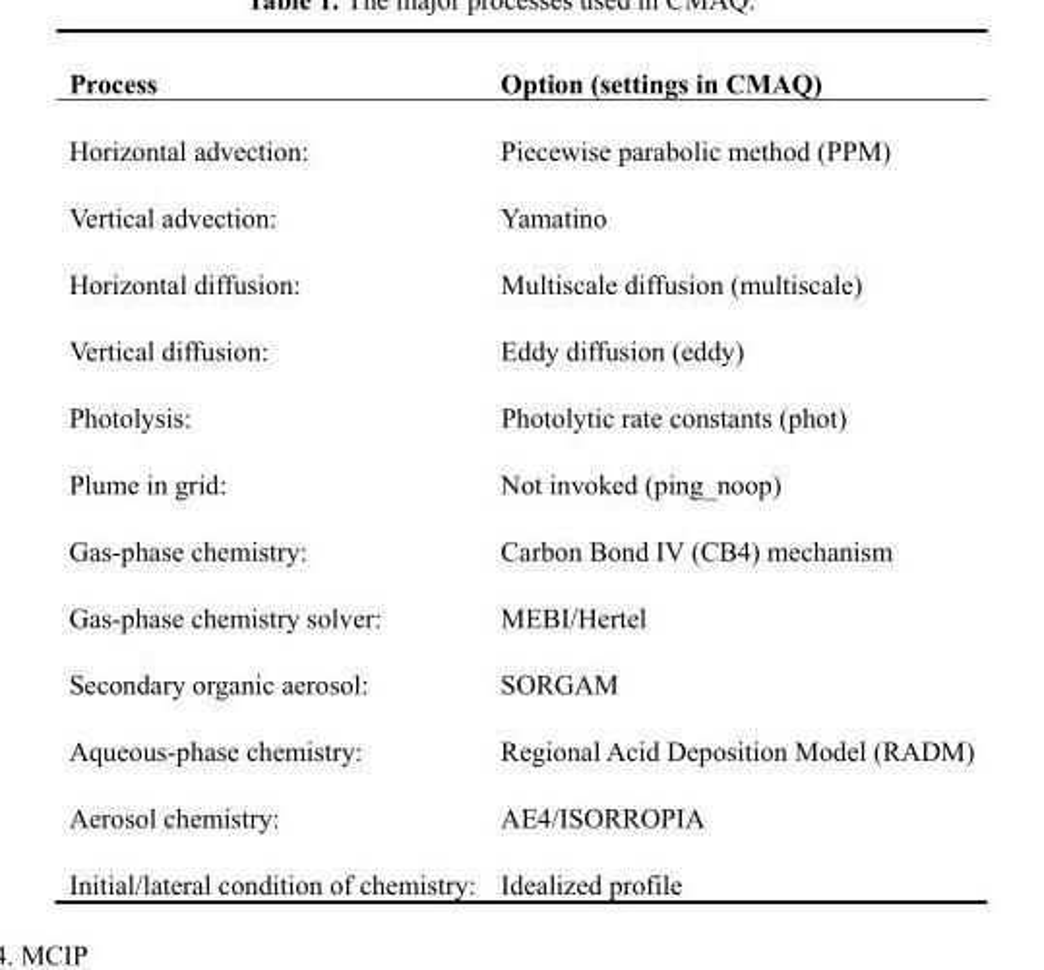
<table><thead><tr><td>Process</td><td>Option (settings in CMAQ)</td></tr></thead><tbody><tr><td>Horizontal advection:</td><td>Piecewise parabolic method (PPM)</td></tr><tr><td>Vertical advection:</td><td>Yamatino</td></tr><tr><td>Horizontal diffusion:</td><td>Multiscale diffusion (multiscale)</td></tr><tr><td>Vertical diffusion:</td><td>Eddy diffusion (eddy)</td></tr><tr><td>Photolysis:</td><td>Photolytic rate constants (phot)</td></tr><tr><td>Plume in grid:</td><td>Not invoked (ping_noop)</td></tr><tr><td>Gas-phase chemistry:</td><td>Carbon Bond IV (CB4) mechanism</td></tr><tr><td>Gas-phase chemistry solver:</td><td>MEBI/Hertel</td></tr><tr><td>Secondary organic aerosol:</td><td>SORGAM</td></tr><tr><td>Aqueous-phase chemistry:</td><td>Regional Acid Deposition Model (RADM)</td></tr><tr><td>Aerosol chemistry:</td><td>AE4/ISORROPIA</td></tr><tr><td>Initial/lateral condition of chemistry:</td><td>Idealized profile</td></tr></tbody></table>